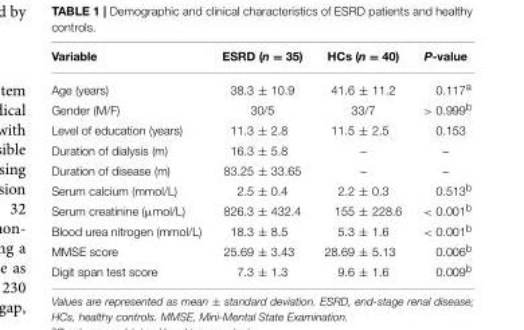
<table><thead><tr><td>Variable</td><td>ESRD (n = 35)</td><td>HCs (n = 40)</td><td>P-value</td></tr></thead><tbody><tr><td>Age (years)</td><td>38.3 ± 10.9</td><td>41.6 ± 11.2</td><td>0.117<sup>a</sup></td></tr><tr><td>Gender (M/F)</td><td>30/5</td><td>33/7</td><td>&gt; 0.999<sup>b</sup></td></tr><tr><td>Level of education (years)</td><td>11.3 ± 2.8</td><td>11.5 ± 2.5</td><td>0.153</td></tr><tr><td>Duration of dialysis (m)</td><td>16.3 ± 5.8</td><td>–</td><td>–</td></tr><tr><td>Duration of disease (m)</td><td>83.25 ± 33.65</td><td>–</td><td>–</td></tr><tr><td>Serum calcium (mmol/L)</td><td>2.5 ± 0.4</td><td>2.2 ± 0.3</td><td>0.513<sup>b</sup></td></tr><tr><td>Serum creatinine (µmol/L)</td><td>826.3 ± 432.4</td><td>155 ± 228.6</td><td>&lt; 0.001<sup>b</sup></td></tr><tr><td>Blood urea nitrogen (mmol/L)</td><td>18.3 ± 8.5</td><td>5.3 ± 1.6</td><td>&lt; 0.001<sup>b</sup></td></tr><tr><td>MMSE score</td><td>25.69 ± 3.43</td><td>28.69 ± 5.13</td><td>0.006<sup>b</sup></td></tr><tr><td>Digit span test score</td><td>7.3 ± 1.3</td><td>9.6 ± 1.6</td><td>0.009<sup>b</sup></td></tr></tbody></table>